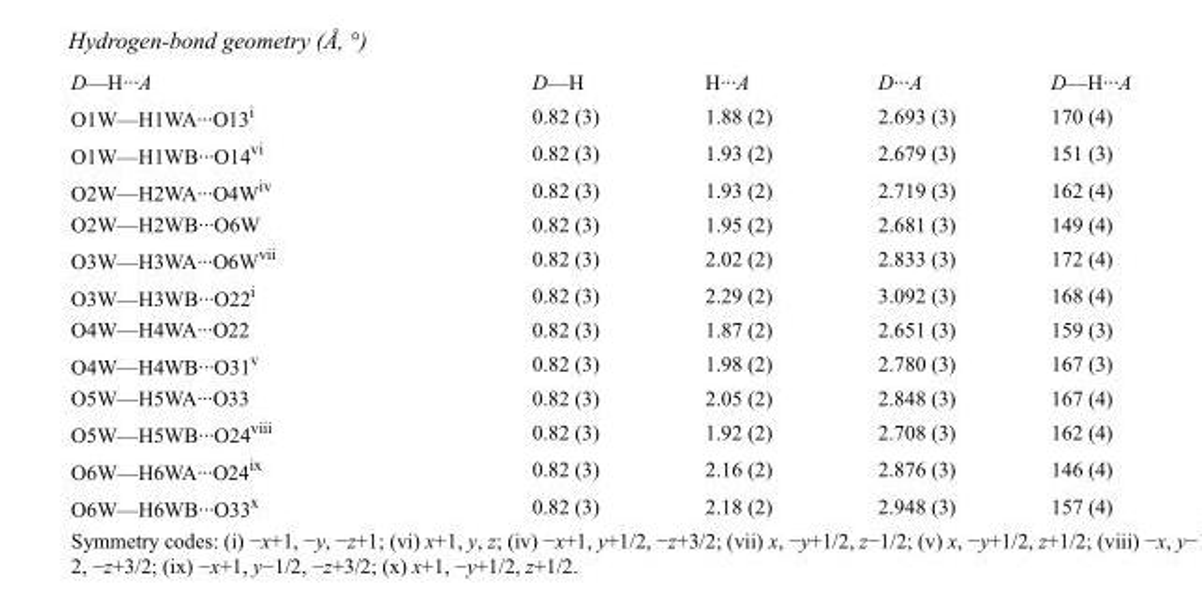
<table><tbody><tr><td>D—H···A</td><td>D—H</td><td>H···A</td><td>D···A</td><td>D—H···A</td></tr><tr><td>O1W—H1WA···O13<sup>i</sup></td><td>0.82 (3)</td><td>1.88 (2)</td><td>2.693 (3)</td><td>170 (4)</td></tr><tr><td>O1W—H1WB···O14<sup>vi</sup></td><td>0.82 (3)</td><td>1.93 (2)</td><td>2.679 (3)</td><td>151 (3)</td></tr><tr><td>O2W—H2WA···O4W<sup>iv</sup></td><td>0.82 (3)</td><td>1.93 (2)</td><td>2.719 (3)</td><td>162 (4)</td></tr><tr><td>O2W—H2WB···O6W</td><td>0.82 (3)</td><td>1.95 (2)</td><td>2.681 (3)</td><td>149 (4)</td></tr><tr><td>O3W—H3WA···O6W<sup>vii</sup></td><td>0.82 (3)</td><td>2.02 (2)</td><td>2.833 (3)</td><td>172 (4)</td></tr><tr><td>O3W—H3WB···O22<sup>i</sup></td><td>0.82 (3)</td><td>2.29 (2)</td><td>3.092 (3)</td><td>168 (4)</td></tr><tr><td>O4W—H4WA···O22</td><td>0.82 (3)</td><td>1.87 (2)</td><td>2.651 (3)</td><td>159 (3)</td></tr><tr><td>O4W—H4WB···O31<sup>v</sup></td><td>0.82 (3)</td><td>1.98 (2)</td><td>2.780 (3)</td><td>167 (3)</td></tr><tr><td>O5W—H5WA···O33</td><td>0.82 (3)</td><td>2.05 (2)</td><td>2.848 (3)</td><td>167 (4)</td></tr><tr><td>O5W—H5WB···O24<sup>viii</sup></td><td>0.82 (3)</td><td>1.92 (2)</td><td>2.708 (3)</td><td>162 (4)</td></tr><tr><td>O6W—H6WA···O24<sup>ix</sup></td><td>0.82 (3)</td><td>2.16 (2)</td><td>2.876 (3)</td><td>146 (4)</td></tr><tr><td>O6W—H6WB···O33<sup>x</sup></td><td>0.82 (3)</td><td>2.18 (2)</td><td>2.948 (3)</td><td>157 (4)</td></tr></tbody></table>